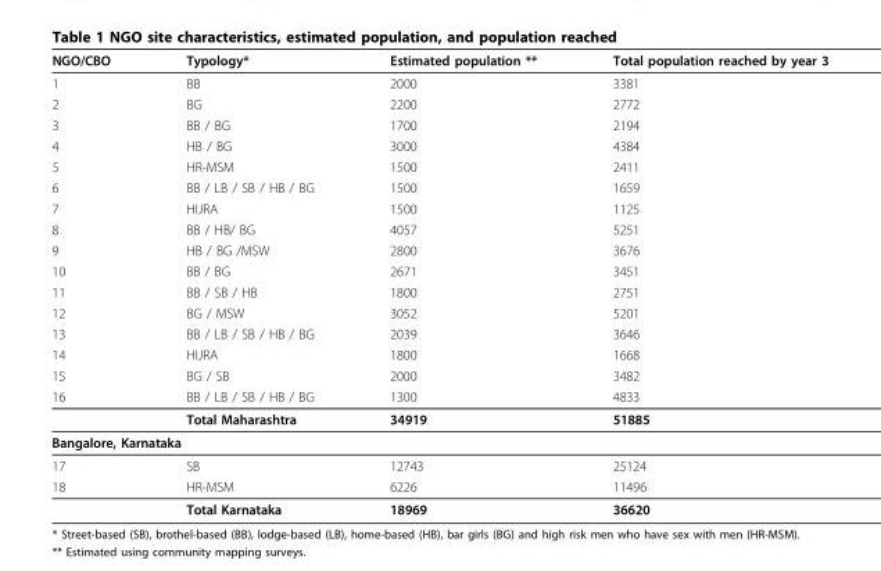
<table><thead><tr><td>NGO/CBO</td><td>Typology*</td><td>Estimated population **</td><td>Total population reached by year 3</td></tr></thead><tbody><tr><td>1</td><td>BB</td><td>2000</td><td>3381</td></tr><tr><td>2</td><td>BG</td><td>2200</td><td>2772</td></tr><tr><td>3</td><td>BB / BG</td><td>1700</td><td>2194</td></tr><tr><td>4</td><td>HB / BG</td><td>3000</td><td>4384</td></tr><tr><td>5</td><td>HR-MSM</td><td>1500</td><td>2411</td></tr><tr><td>6</td><td>BB / LB / SB / HB / BG</td><td>1500</td><td>1659</td></tr><tr><td>7</td><td>HIJRA</td><td>1500</td><td>1125</td></tr><tr><td>8</td><td>BB / HB/ BG</td><td>4057</td><td>5251</td></tr><tr><td>9</td><td>HB / BG /MSW</td><td>2800</td><td>3676</td></tr><tr><td>10</td><td>BB / BG</td><td>2671</td><td>3451</td></tr><tr><td>11</td><td>BB / SB / HB</td><td>1800</td><td>2751</td></tr><tr><td>12</td><td>BG / MSW</td><td>3052</td><td>5201</td></tr><tr><td>13</td><td>BB / LB / SB / HB / BG</td><td>2039</td><td>3646</td></tr><tr><td>14</td><td>HIJRA</td><td>1800</td><td>1668</td></tr><tr><td>15</td><td>BG / SB</td><td>2000</td><td>3482</td></tr><tr><td rowspan="2">16</td><td>BB / LB / SB / HB / BG</td><td>1300</td><td>4833</td></tr><tr><td>Total Maharashtra</td><td>34919</td><td>51885</td></tr><tr><td colspan="4">Bangalore, Karnataka</td></tr><tr><td>17</td><td>SB</td><td>12743</td><td>25124</td></tr><tr><td rowspan="2">18</td><td>HR-MSM</td><td>6226</td><td>11496</td></tr><tr><td>Total Karnataka</td><td>18969</td><td>36620</td></tr></tbody></table>